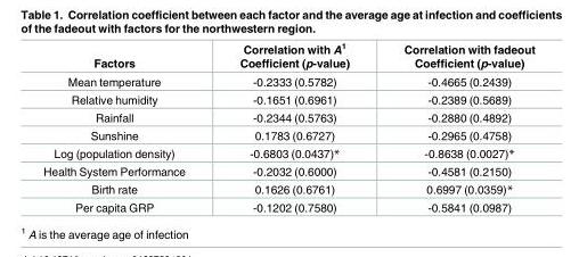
<table><thead><tr><td>Factors</td><td>Correlation with A<sup>1</sup> Coefficient (p-value)</td><td>Correlation with fadeout Coefficient (p-value)</td></tr></thead><tbody><tr><td>Mean temperature</td><td>-0.2333 (0.5782)</td><td>-0.4665 (0.2439)</td></tr><tr><td>Relative humidity</td><td>-0.1651 (0.6961)</td><td>-0.2389 (0.5689)</td></tr><tr><td>Rainfall</td><td>-0.2344 (0.5763)</td><td>-0.2880 (0.4892)</td></tr><tr><td>Sunshine</td><td>0.1783 (0.6727)</td><td>-0.2965 (0.4758)</td></tr><tr><td>Log (population density)</td><td>-0.6803 (0.0437)*</td><td>-0.8638 (0.0027)*</td></tr><tr><td>Health System Performance</td><td>-0.2032 (0.6000)</td><td>-0.4581 (0.2150)</td></tr><tr><td>Birth rate</td><td>0.1626 (0.6761)</td><td>0.6997 (0.0359)*</td></tr><tr><td>Per capita GRP</td><td>-0.1202 (0.7580)</td><td>-0.5841 (0.0987)</td></tr></tbody></table>